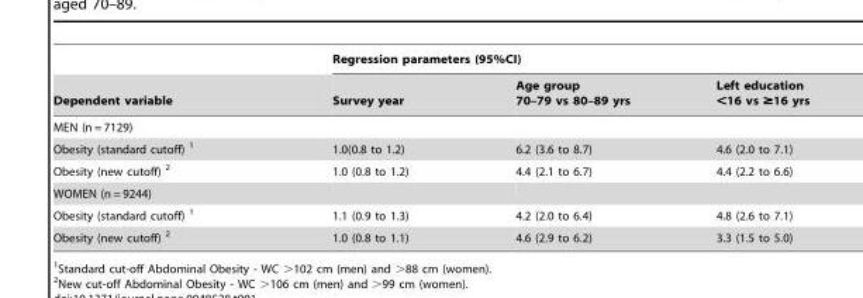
<table><thead><tr><td rowspan="2">Dependent variable</td><td colspan="3">Regression parameters (95%CI)</td></tr><tr><td>Survey year</td><td>Age group 70–79 vs 80–89 yrs</td><td>Left education &lt;16 vs ≥16 yrs</td></tr></thead><tbody><tr><td colspan="4">MEN (n = 7129)</td></tr><tr><td>Obesity (standard cutoff) 1</td><td>1.0(0.8 to 1.2)</td><td>6.2 (3.6 to 8.7)</td><td>4.6 (2.0 to 7.1)</td></tr><tr><td>Obesity (new cutoff) 2</td><td>1.0 (0.8 to 1.2)</td><td>4.4 (2.1 to 6.7)</td><td>4.4 (2.2 to 6.6)</td></tr><tr><td colspan="4">WOMEN (n = 9244)</td></tr><tr><td>Obesity (standard cutoff) 1</td><td>1.1 (0.9 to 1.3)</td><td>4.2 (2.0 to 6.4)</td><td>4.8 (2.6 to 7.1)</td></tr><tr><td>Obesity (new cutoff) 2</td><td>1.0 (0.8 to 1.1)</td><td>4.6 (2.9 to 6.2)</td><td>3.3 (1.5 to 5.0)</td></tr></tbody></table>